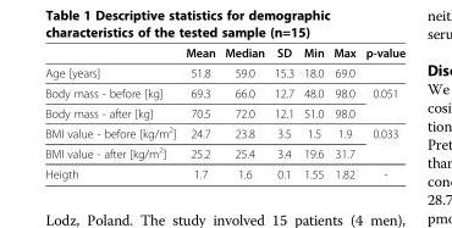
<table><thead><tr><td></td><td>Mean</td><td>Median</td><td>SD</td><td>Min</td><td>Max</td><td>p-value</td></tr></thead><tbody><tr><td>Age [years]</td><td>51.8</td><td>59.0</td><td>15.3</td><td>18.0</td><td>69.0</td><td></td></tr><tr><td>Body mass - before [kg]</td><td>69.3</td><td>66.0</td><td>12.7</td><td>48.0</td><td>98.0</td><td rowspan="2">0.051</td></tr><tr><td>Body mass - after [kg]</td><td>70.5</td><td>72.0</td><td>12.1</td><td>51.0</td><td>98.0</td></tr><tr><td>BMI value - before [kg/m<sup>2</sup>]</td><td>24.7</td><td>23.8</td><td>3.5</td><td>1.5</td><td>1.9</td><td rowspan="2">0.033</td></tr><tr><td>BMI value - after [kg/m<sup>2</sup>]</td><td>25.2</td><td>25.4</td><td>3.4</td><td>19.6</td><td>31.7</td></tr><tr><td>Heigth</td><td>1.7</td><td>1.6</td><td>0.1</td><td>1.55</td><td>1.82</td><td>-</td></tr></tbody></table>